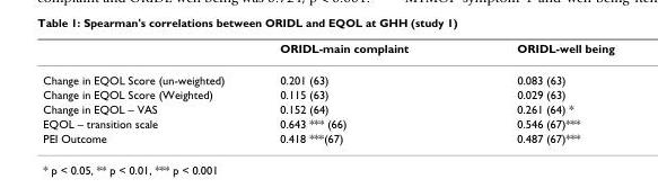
<table><thead><tr><td></td><td>ORIDL-main complaint</td><td>ORIDL-well being</td></tr></thead><tbody><tr><td>Change in EQOL Score (un-weighted)</td><td>0.201 (63)</td><td>0.083 (63)</td></tr><tr><td>Change in EQOL Score (Weighted)</td><td>0.115 (63)</td><td>0.029 (63)</td></tr><tr><td>Change in EQOL – VAS</td><td>0.152 (64)</td><td>0.261 (64) *</td></tr><tr><td>EQOL – transition scale</td><td>0.643 *** (66)</td><td>0.546 (67)***</td></tr><tr><td>PEI Outcome</td><td>0.418 ***(67)</td><td>0.487 (67)***</td></tr></tbody></table>